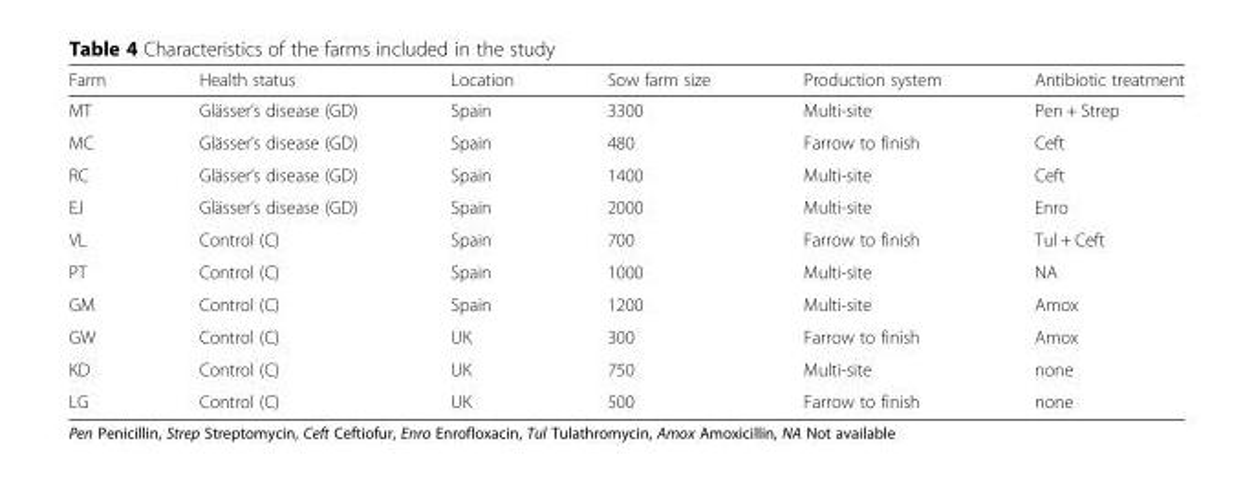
<table><thead><tr><td>Farm</td><td>Health status</td><td>Location</td><td>Sow farm size</td><td>Production system</td><td>Antibiotic treatment</td></tr></thead><tbody><tr><td>MT</td><td>Glässer’s disease (GD)</td><td>Spain</td><td>3300</td><td>Multi-site</td><td>Pen + Strep</td></tr><tr><td>MC</td><td>Glässer’s disease (GD)</td><td>Spain</td><td>480</td><td>Farrow to finish</td><td>Ceft</td></tr><tr><td>RC</td><td>Glässer’s disease (GD)</td><td>Spain</td><td>1400</td><td>Multi-site</td><td>Ceft</td></tr><tr><td>EJ</td><td>Glässer’s disease (GD)</td><td>Spain</td><td>2000</td><td>Multi-site</td><td>Enro</td></tr><tr><td>VL</td><td>Control (C)</td><td>Spain</td><td>700</td><td>Farrow to finish</td><td>Tul + Ceft</td></tr><tr><td>PT</td><td>Control (C)</td><td>Spain</td><td>1000</td><td>Multi-site</td><td>NA</td></tr><tr><td>GM</td><td>Control (C)</td><td>Spain</td><td>1200</td><td>Multi-site</td><td>Amox</td></tr><tr><td>GW</td><td>Control (C)</td><td>UK</td><td>300</td><td>Farrow to finish</td><td>Amox</td></tr><tr><td>KD</td><td>Control (C)</td><td>UK</td><td>750</td><td>Multi-site</td><td>none</td></tr><tr><td>LG</td><td>Control (C)</td><td>UK</td><td>500</td><td>Farrow to finish</td><td>none</td></tr></tbody></table>